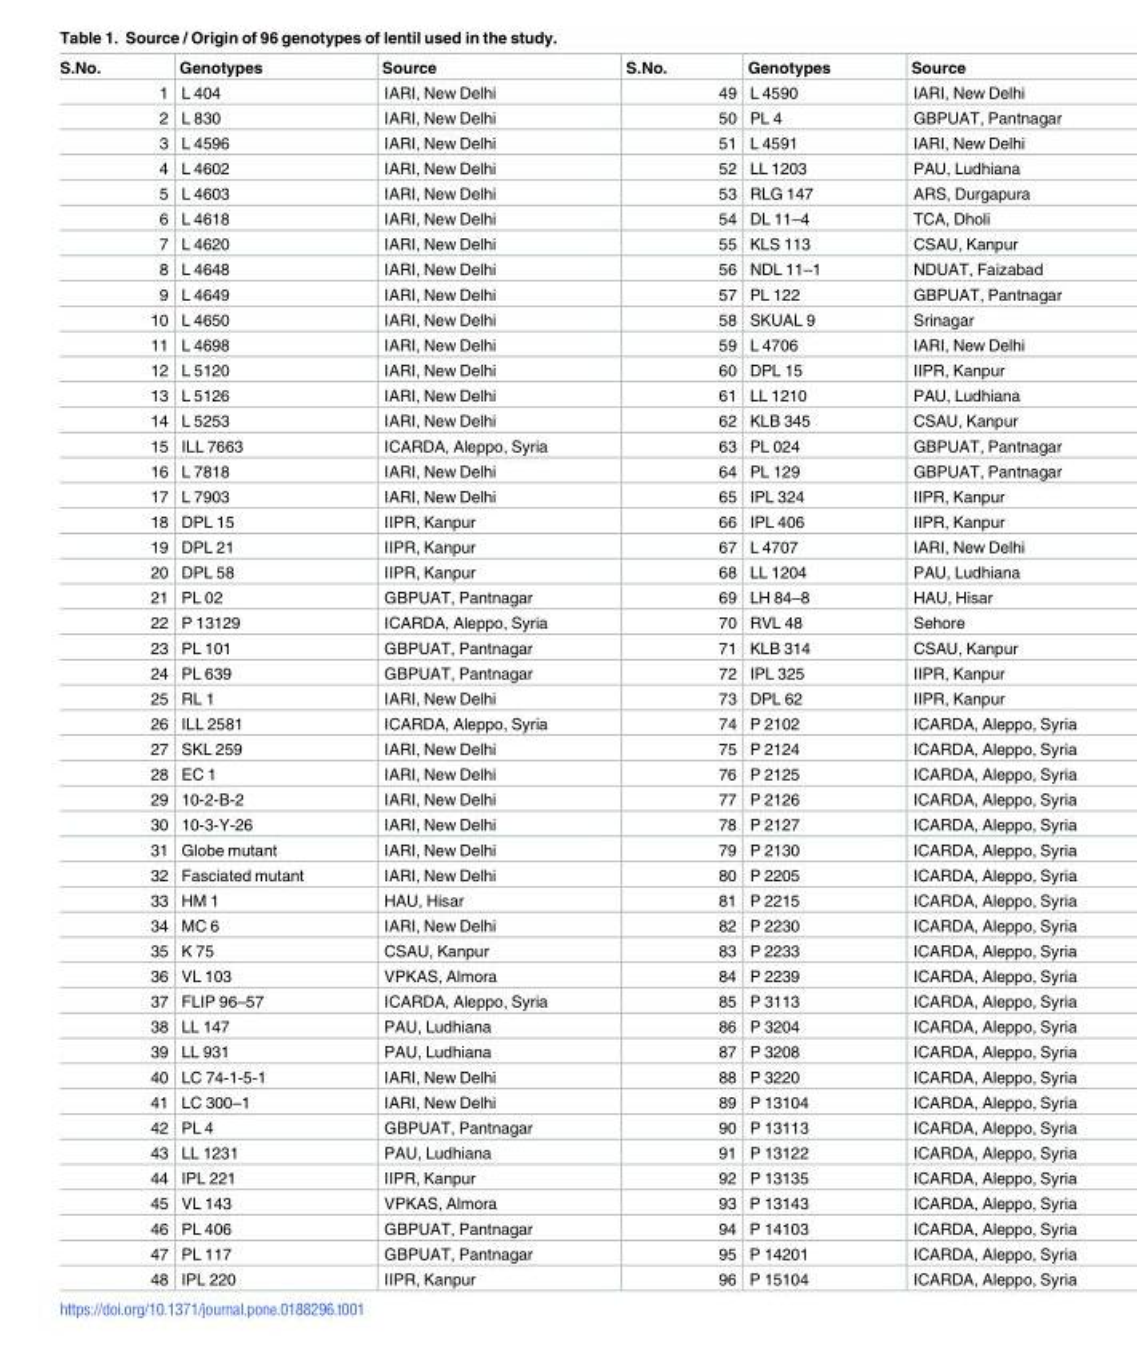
<table><thead><tr><td>S.No.</td><td>Genotypes</td><td>Source</td><td>S.No.</td><td>Genotypes</td><td>Source</td></tr></thead><tbody><tr><td>1</td><td>L 404</td><td>IARI, New Delhi</td><td>49</td><td>L 4590</td><td>IARI, New Delhi</td></tr><tr><td>2</td><td>L 830</td><td>IARI, New Delhi</td><td>50</td><td>PL 4</td><td>GBPUAT, Pantnagar</td></tr><tr><td>3</td><td>L 4596</td><td>IARI, New Delhi</td><td>51</td><td>L 4591</td><td>IARI, New Delhi</td></tr><tr><td>4</td><td>L 4602</td><td>IARI, New Delhi</td><td>52</td><td>LL 1203</td><td>PAU, Ludhiana</td></tr><tr><td>5</td><td>L 4603</td><td>IARI, New Delhi</td><td>53</td><td>RLG 147</td><td>ARS, Durgapura</td></tr><tr><td>6</td><td>L 4618</td><td>IARI, New Delhi</td><td>54</td><td>DL 11–4</td><td>TCA, Dholi</td></tr><tr><td>7</td><td>L 4620</td><td>IARI, New Delhi</td><td>55</td><td>KLS 113</td><td>CSAU, Kanpur</td></tr><tr><td>8</td><td>L 4648</td><td>IARI, New Delhi</td><td>56</td><td>NDL 11–1</td><td>NDUAT, Faizabad</td></tr><tr><td>9</td><td>L 4649</td><td>IARI, New Delhi</td><td>57</td><td>PL 122</td><td>GBPUAT, Pantnagar</td></tr><tr><td>10</td><td>L 4650</td><td>IARI, New Delhi</td><td>58</td><td>SKUAL 9</td><td>Srinagar</td></tr><tr><td>11</td><td>L 4698</td><td>IARI, New Delhi</td><td>59</td><td>L 4706</td><td>IARI, New Delhi</td></tr><tr><td>12</td><td>L 5120</td><td>IARI, New Delhi</td><td>60</td><td>DPL 15</td><td>IIPR, Kanpur</td></tr><tr><td>13</td><td>L 5126</td><td>IARI, New Delhi</td><td>61</td><td>LL 1210</td><td>PAU, Ludhiana</td></tr><tr><td>14</td><td>L 5253</td><td>IARI, New Delhi</td><td>62</td><td>KLB 345</td><td>CSAU, Kanpur</td></tr><tr><td>15</td><td>ILL 7663</td><td>ICARDA, Aleppo, Syria</td><td>63</td><td>PL 024</td><td>GBPUAT, Pantnagar</td></tr><tr><td>16</td><td>L 7818</td><td>IARI, New Delhi</td><td>64</td><td>PL 129</td><td>GBPUAT, Pantnagar</td></tr><tr><td>17</td><td>L 7903</td><td>IARI, New Delhi</td><td>65</td><td>IPL 324</td><td>IIPR, Kanpur</td></tr><tr><td>18</td><td>DPL 15</td><td>IIPR, Kanpur</td><td>66</td><td>IPL 406</td><td>IIPR, Kanpur</td></tr><tr><td>19</td><td>DPL 21</td><td>IIPR, Kanpur</td><td>67</td><td>L 4707</td><td>IARI, New Delhi</td></tr><tr><td>20</td><td>DPL 58</td><td>IIPR, Kanpur</td><td>68</td><td>LL 1204</td><td>PAU, Ludhiana</td></tr><tr><td>21</td><td>PL 02</td><td>GBPUAT, Pantnagar</td><td>69</td><td>LH 84–8</td><td>HAU, Hisar</td></tr><tr><td>22</td><td>P 13129</td><td>ICARDA, Aleppo, Syria</td><td>70</td><td>RVL 48</td><td>Sehore</td></tr><tr><td>23</td><td>PL 101</td><td>GBPUAT, Pantnagar</td><td>71</td><td>KLB 314</td><td>CSAU, Kanpur</td></tr><tr><td>24</td><td>PL 639</td><td>GBPUAT, Pantnagar</td><td>72</td><td>IPL 325</td><td>IIPR, Kanpur</td></tr><tr><td>25</td><td>RL 1</td><td>IARI, New Delhi</td><td>73</td><td>DPL 62</td><td>IIPR, Kanpur</td></tr><tr><td>26</td><td>ILL 2581</td><td>ICARDA, Aleppo, Syria</td><td>74</td><td>P 2102</td><td>ICARDA, Aleppo, Syria</td></tr><tr><td>27</td><td>SKL 259</td><td>IARI, New Delhi</td><td>75</td><td>P 2124</td><td>ICARDA, Aleppo, Syria</td></tr><tr><td>28</td><td>EC 1</td><td>IARI, New Delhi</td><td>76</td><td>P 2125</td><td>ICARDA, Aleppo, Syria</td></tr><tr><td>29</td><td>10-2-B-2</td><td>IARI, New Delhi</td><td>77</td><td>P 2126</td><td>ICARDA, Aleppo, Syria</td></tr><tr><td>30</td><td>10-3-Y-26</td><td>IARI, New Delhi</td><td>78</td><td>P 2127</td><td>ICARDA, Aleppo, Syria</td></tr><tr><td>31</td><td>Globe mutant</td><td>IARI, New Delhi</td><td>79</td><td>P 2130</td><td>ICARDA, Aleppo, Syria</td></tr><tr><td>32</td><td>Fasciated mutant</td><td>IARI, New Delhi</td><td>80</td><td>P 2205</td><td>ICARDA, Aleppo, Syria</td></tr><tr><td>33</td><td>HM 1</td><td>HAU, Hisar</td><td>81</td><td>P 2215</td><td>ICARDA, Aleppo, Syria</td></tr><tr><td>34</td><td>MC 6</td><td>IARI, New Delhi</td><td>82</td><td>P 2230</td><td>ICARDA, Aleppo, Syria</td></tr><tr><td>35</td><td>K 75</td><td>CSAU, Kanpur</td><td>83</td><td>P 2233</td><td>ICARDA, Aleppo, Syria</td></tr><tr><td>36</td><td>VL 103</td><td>VPKAS, Almora</td><td>84</td><td>P 2239</td><td>ICARDA, Aleppo, Syria</td></tr><tr><td>37</td><td>FLIP 96–57</td><td>ICARDA, Aleppo, Syria</td><td>85</td><td>P 3113</td><td>ICARDA, Aleppo, Syria</td></tr><tr><td>38</td><td>LL 147</td><td>PAU, Ludhiana</td><td>86</td><td>P 3204</td><td>ICARDA, Aleppo, Syria</td></tr><tr><td>39</td><td>LL 931</td><td>PAU, Ludhiana</td><td>87</td><td>P 3208</td><td>ICARDA, Aleppo, Syria</td></tr><tr><td>40</td><td>LC 74-1-5-1</td><td>IARI, New Delhi</td><td>88</td><td>P 3220</td><td>ICARDA, Aleppo, Syria</td></tr><tr><td>41</td><td>LC 300–1</td><td>IARI, New Delhi</td><td>89</td><td>P 13104</td><td>ICARDA, Aleppo, Syria</td></tr><tr><td>42</td><td>PL 4</td><td>GBPUAT, Pantnagar</td><td>90</td><td>P 13113</td><td>ICARDA, Aleppo, Syria</td></tr><tr><td>43</td><td>LL 1231</td><td>PAU, Ludhiana</td><td>91</td><td>P 13122</td><td>ICARDA, Aleppo, Syria</td></tr><tr><td>44</td><td>IPL 221</td><td>IIPR, Kanpur</td><td>92</td><td>P 13135</td><td>ICARDA, Aleppo, Syria</td></tr><tr><td>45</td><td>VL 143</td><td>VPKAS, Almora</td><td>93</td><td>P 13143</td><td>ICARDA, Aleppo, Syria</td></tr><tr><td>46</td><td>PL 406</td><td>GBPUAT, Pantnagar</td><td>94</td><td>P 14103</td><td>ICARDA, Aleppo, Syria</td></tr><tr><td>47</td><td>PL 117</td><td>GBPUAT, Pantnagar</td><td>95</td><td>P 14201</td><td>ICARDA, Aleppo, Syria</td></tr><tr><td>48</td><td>IPL 220</td><td>IIPR, Kanpur</td><td>96</td><td>P 15104</td><td>ICARDA, Aleppo, Syria</td></tr></tbody></table>